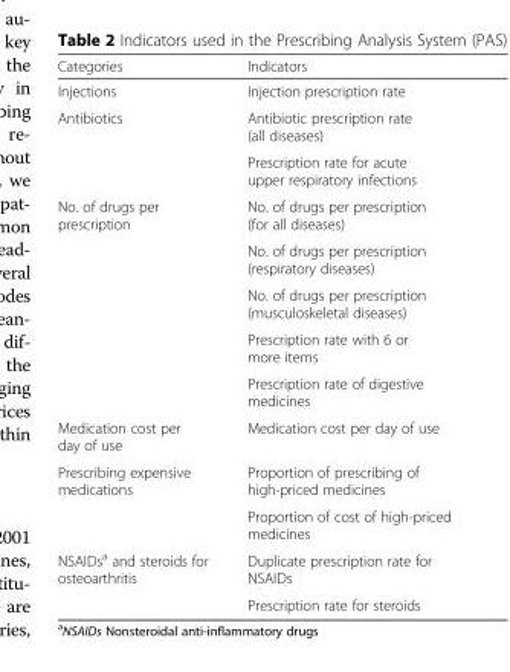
<table><thead><tr><td>Categories</td><td>Indicators</td></tr></thead><tbody><tr><td>Injections</td><td>Injection prescription rate</td></tr><tr><td rowspan="2">Antibiotics</td><td>Antibiotic prescription rate (all diseases)</td></tr><tr><td>Prescription rate for acute upper respiratory infections</td></tr><tr><td rowspan="5">No. of drugs per prescription</td><td>No. of drugs per prescription (for all diseases)</td></tr><tr><td>No. of drugs per prescription (respiratory diseases)</td></tr><tr><td>No. of drugs per prescription (musculoskeletal diseases)</td></tr><tr><td>Prescription rate with 6 or more items</td></tr><tr><td>Prescription rate of digestive medicines</td></tr><tr><td>Medication cost per day of use</td><td>Medication cost per day of use</td></tr><tr><td rowspan="2">Prescribing expensive medications</td><td>Proportion of prescribing of high-priced medicines</td></tr><tr><td>Proportion of cost of high-priced medicines</td></tr><tr><td rowspan="2">NSAIDs<sup>a</sup> and steroids for osteoarthritis</td><td>Duplicate prescription rate for NSAIDs</td></tr><tr><td>Prescription rate for steroids</td></tr></tbody></table>